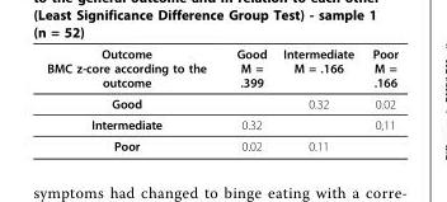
<table><thead><tr><td>Outcome BMC z-core according to the outcome</td><td>Good M = .399</td><td>Intermediate M = .166</td><td>Poor M = .166</td></tr></thead><tbody><tr><td>Good</td><td></td><td>0.32</td><td>0.02</td></tr><tr><td>Intermediate</td><td>0.32</td><td></td><td>0,11</td></tr><tr><td>Poor</td><td>0.02</td><td>0.11</td><td></td></tr></tbody></table>